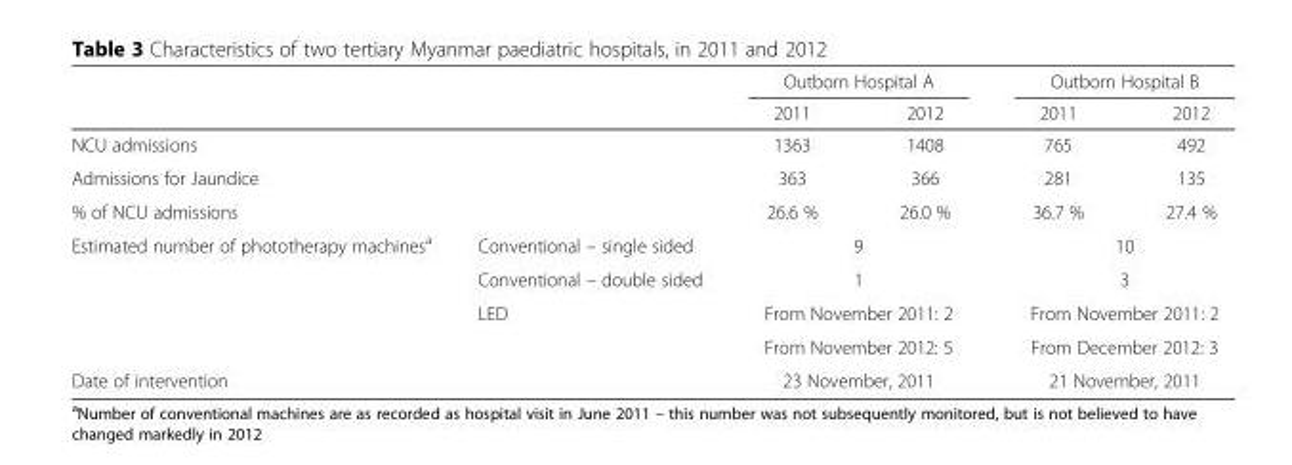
<table><thead><tr><td rowspan="2"></td><td rowspan="2"></td><td colspan="2">Outborn Hospital A</td><td colspan="2">Outborn Hospital B</td></tr><tr><td>2011</td><td>2012</td><td>2011</td><td>2012</td></tr></thead><tbody><tr><td>NCU admissions</td><td></td><td>1363</td><td>1408</td><td>765</td><td>492</td></tr><tr><td>Admissions for Jaundice</td><td></td><td>363</td><td>366</td><td>281</td><td>135</td></tr><tr><td>% of NCU admissions</td><td></td><td>26.6 %</td><td>26.0 %</td><td>36.7 %</td><td>27.4 %</td></tr><tr><td rowspan="4">Estimated number of phototherapy machines<sup>a</sup></td><td>Conventional – single sided</td><td colspan="2">9</td><td colspan="2">10</td></tr><tr><td>Conventional – double sided</td><td colspan="2">1</td><td colspan="2">3</td></tr><tr><td rowspan="2">LED</td><td colspan="2">From November 2011: 2</td><td colspan="2">From November 2011: 2</td></tr><tr><td colspan="2">From November 2012: 5</td><td colspan="2">From December 2012: 3</td></tr><tr><td colspan="2">Date of intervention</td><td colspan="2">23 November, 2011</td><td colspan="2">21 November, 2011</td></tr></tbody></table>